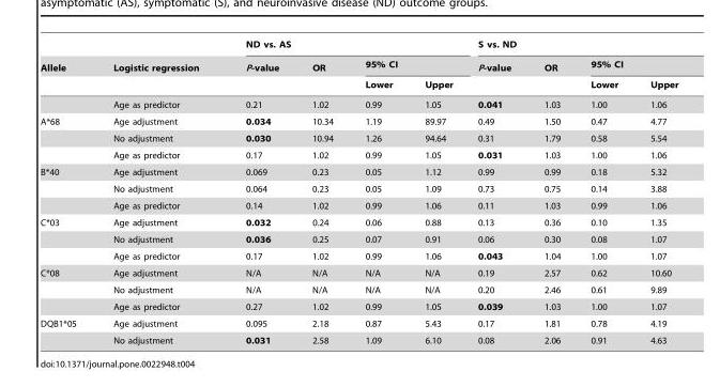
<table><thead><tr><td rowspan="3">Allele</td><td rowspan="3">Logistic regression</td><td colspan="4">ND vs. AS</td><td colspan="4">S vs. ND</td></tr><tr><td rowspan="2">P-value</td><td rowspan="2">OR</td><td colspan="2">95% CI</td><td rowspan="2">P-value</td><td rowspan="2">OR</td><td colspan="2">95% CI</td></tr><tr><td>Lower</td><td>Upper</td><td>Lower</td><td>Upper</td></tr></thead><tbody><tr><td></td><td>Age as predictor</td><td>0.21</td><td>1.02</td><td>0.99</td><td>1.05</td><td>0.041</td><td>1.03</td><td>1.00</td><td>1.06</td></tr><tr><td rowspan="3">A*68</td><td>Age adjustment</td><td>0.034</td><td>10.34</td><td>1.19</td><td>89.97</td><td>0.49</td><td>1.50</td><td>0.47</td><td>4.77</td></tr><tr><td>No adjustment</td><td>0.030</td><td>10.94</td><td>1.26</td><td>94.64</td><td>0.31</td><td>1.79</td><td>0.58</td><td>5.54</td></tr><tr><td>Age as predictor</td><td>0.17</td><td>1.02</td><td>0.99</td><td>1.05</td><td>0.031</td><td>1.03</td><td>1.00</td><td>1.06</td></tr><tr><td rowspan="3">B*40</td><td>Age adjustment</td><td>0.069</td><td>0.23</td><td>0.05</td><td>1.12</td><td>0.99</td><td>0.99</td><td>0.18</td><td>5.32</td></tr><tr><td>No adjustment</td><td>0.064</td><td>0.23</td><td>0.05</td><td>1.09</td><td>0.73</td><td>0.75</td><td>0.14</td><td>3.88</td></tr><tr><td>Age as predictor</td><td>0.14</td><td>1.02</td><td>0.99</td><td>1.06</td><td>0.11</td><td>1.03</td><td>0.99</td><td>1.06</td></tr><tr><td rowspan="3">C*03</td><td>Age adjustment</td><td>0.032</td><td>0.24</td><td>0.06</td><td>0.88</td><td>0.13</td><td>0.36</td><td>0.10</td><td>1.35</td></tr><tr><td>No adjustment</td><td>0.036</td><td>0.25</td><td>0.07</td><td>0.91</td><td>0.06</td><td>0.30</td><td>0.08</td><td>1.07</td></tr><tr><td>Age as predictor</td><td>0.17</td><td>1.02</td><td>0.99</td><td>1.06</td><td>0.043</td><td>1.04</td><td>1.00</td><td>1.07</td></tr><tr><td rowspan="3">C*08</td><td>Age adjustment</td><td>N/A</td><td>N/A</td><td>N/A</td><td>N/A</td><td>0.19</td><td>2.57</td><td>0.62</td><td>10.60</td></tr><tr><td>No adjustment</td><td>N/A</td><td>N/A</td><td>N/A</td><td>N/A</td><td>0.20</td><td>2.46</td><td>0.61</td><td>9.89</td></tr><tr><td>Age as predictor</td><td>0.27</td><td>1.02</td><td>0.99</td><td>1.05</td><td>0.039</td><td>1.03</td><td>1.00</td><td>1.07</td></tr><tr><td rowspan="2">DQB1*05</td><td>Age adjustment</td><td>0.095</td><td>2.18</td><td>0.87</td><td>5.43</td><td>0.17</td><td>1.81</td><td>0.78</td><td>4.19</td></tr><tr><td>No adjustment</td><td>0.031</td><td>2.58</td><td>1.09</td><td>6.10</td><td>0.08</td><td>2.06</td><td>0.91</td><td>4.63</td></tr></tbody></table>